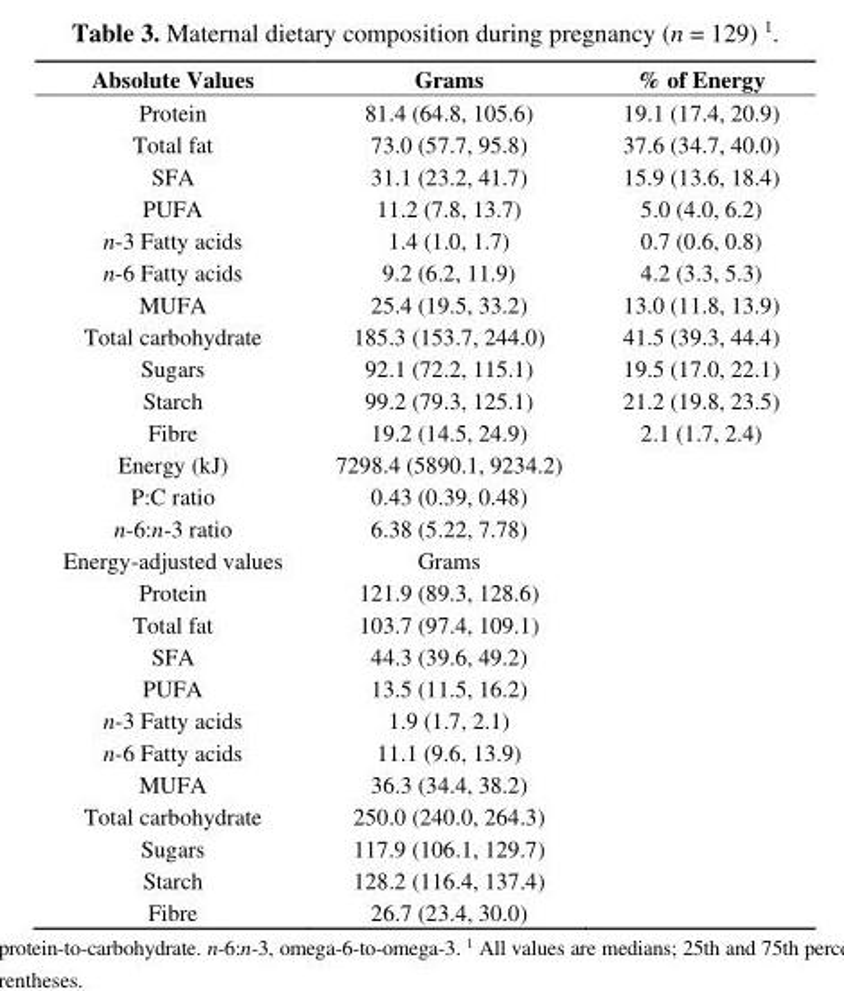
<table><thead><tr><td>Absolute Values</td><td>Grams</td><td>% of Energy</td></tr></thead><tbody><tr><td>Protein</td><td>81.4 (64.8, 105.6)</td><td>19.1 (17.4, 20.9)</td></tr><tr><td>Total fat</td><td>73.0 (57.7, 95.8)</td><td>37.6 (34.7, 40.0)</td></tr><tr><td>SFA</td><td>31.1 (23.2, 41.7)</td><td>15.9 (13.6, 18.4)</td></tr><tr><td>PUFA</td><td>11.2 (7.8, 13.7)</td><td>5.0 (4.0, 6.2)</td></tr><tr><td>n-3 Fatty acids</td><td>1.4 (1.0, 1.7)</td><td>0.7 (0.6, 0.8)</td></tr><tr><td>n-6 Fatty acids</td><td>9.2 (6.2, 11.9)</td><td>4.2 (3.3, 5.3)</td></tr><tr><td>MUFA</td><td>25.4 (19.5, 33.2)</td><td>13.0 (11.8, 13.9)</td></tr><tr><td>Total carbohydrate</td><td>185.3 (153.7, 244.0)</td><td>41.5 (39.3, 44.4)</td></tr><tr><td>Sugars</td><td>92.1 (72.2, 115.1)</td><td>19.5 (17.0, 22.1)</td></tr><tr><td>Starch</td><td>99.2 (79.3, 125.1)</td><td>21.2 (19.8, 23.5)</td></tr><tr><td>Fibre</td><td>19.2 (14.5, 24.9)</td><td>2.1 (1.7, 2.4)</td></tr><tr><td>Energy (kJ)</td><td>7298.4 (5890.1, 9234.2)</td><td></td></tr><tr><td>P:C ratio</td><td>0.43 (0.39, 0.48)</td><td></td></tr><tr><td>n-6:n-3 ratio</td><td>6.38 (5.22, 7.78)</td><td></td></tr><tr><td>Energy-adjusted values</td><td>Grams</td><td></td></tr><tr><td>Protein</td><td>121.9 (89.3, 128.6)</td><td></td></tr><tr><td>Total fat</td><td>103.7 (97.4, 109.1)</td><td></td></tr><tr><td>SFA</td><td>44.3 (39.6, 49.2)</td><td></td></tr><tr><td>PUFA</td><td>13.5 (11.5, 16.2)</td><td></td></tr><tr><td>n-3 Fatty acids</td><td>1.9 (1.7, 2.1)</td><td></td></tr><tr><td>n-6 Fatty acids</td><td>11.1 (9.6, 13.9)</td><td></td></tr><tr><td>MUFA</td><td>36.3 (34.4, 38.2)</td><td></td></tr><tr><td>Total carbohydrate</td><td>250.0 (240.0, 264.3)</td><td></td></tr><tr><td>Sugars</td><td>117.9 (106.1, 129.7)</td><td></td></tr><tr><td>Starch</td><td>128.2 (116.4, 137.4)</td><td></td></tr><tr><td>Fibre</td><td>26.7 (23.4, 30.0)</td><td></td></tr></tbody></table>